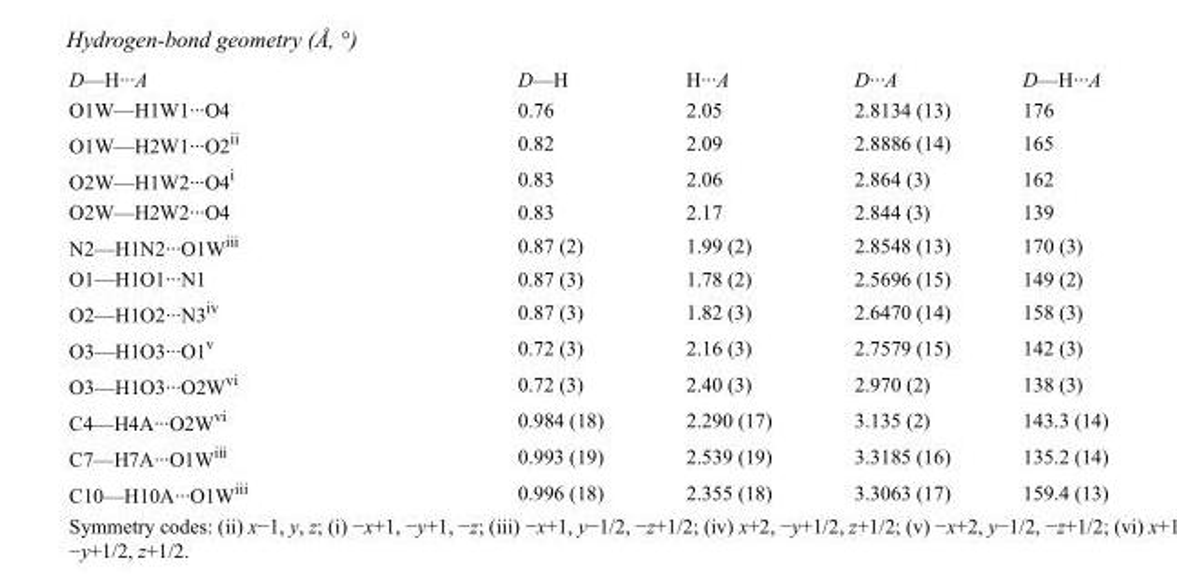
<table><tbody><tr><td>D—H···A</td><td>D—H</td><td>H···A</td><td>D···A</td><td>D—H···A</td></tr><tr><td>O1W—H1W1···O4</td><td>0.76</td><td>2.05</td><td>2.8134 (13)</td><td>176</td></tr><tr><td>O1W—H2W1···O2<sup>ii</sup></td><td>0.82</td><td>2.09</td><td>2.8886 (14)</td><td>165</td></tr><tr><td>O2W—H1W2···O4<sup>i</sup></td><td>0.83</td><td>2.06</td><td>2.864 (3)</td><td>162</td></tr><tr><td>O2W—H2W2···O4</td><td>0.83</td><td>2.17</td><td>2.844 (3)</td><td>139</td></tr><tr><td>N2—H1N2···O1W<sup>iii</sup></td><td>0.87 (2)</td><td>1.99 (2)</td><td>2.8548 (13)</td><td>170 (3)</td></tr><tr><td>O1—H1O1···N1</td><td>0.87 (3)</td><td>1.78 (2)</td><td>2.5696 (15)</td><td>149 (2)</td></tr><tr><td>O2—H1O2···N3<sup>iv</sup></td><td>0.87 (3)</td><td>1.82 (3)</td><td>2.6470 (14)</td><td>158 (3)</td></tr><tr><td>O3—H1O3···O1<sup>v</sup></td><td>0.72 (3)</td><td>2.16 (3)</td><td>2.7579 (15)</td><td>142 (3)</td></tr><tr><td>O3—H1O3···O2W<sup>vi</sup></td><td>0.72 (3)</td><td>2.40 (3)</td><td>2.970 (2)</td><td>138 (3)</td></tr><tr><td>C4—H4A···O2W<sup>vi</sup></td><td>0.984 (18)</td><td>2.290 (17)</td><td>3.135 (2)</td><td>143.3 (14)</td></tr><tr><td>C7—H7A···O1W<sup>iii</sup></td><td>0.993 (19)</td><td>2.539 (19)</td><td>3.3185 (16)</td><td>135.2 (14)</td></tr><tr><td>C10—H10A···O1W<sup>iii</sup></td><td>0.996 (18)</td><td>2.355 (18)</td><td>3.3063 (17)</td><td>159.4 (13)</td></tr></tbody></table>